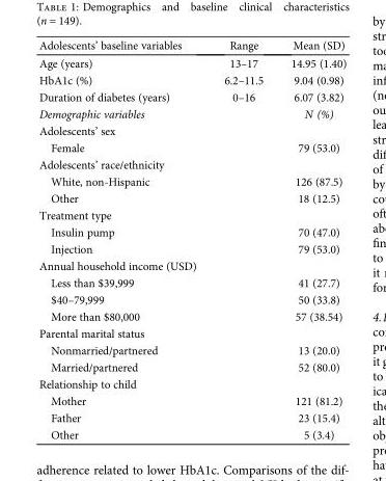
<table><thead><tr><td>Adolescents’ baseline variables</td><td>Range</td><td>Mean (SD)</td></tr></thead><tbody><tr><td>Age (years)</td><td>13–17</td><td>14.95 (1.40)</td></tr><tr><td>HbA1c (%)</td><td>6.2–11.5</td><td>9.04 (0.98)</td></tr><tr><td>Duration of diabetes (years)</td><td>0–16</td><td>6.07 (3.82)</td></tr><tr><td>Demographic variables</td><td></td><td>N (%)</td></tr><tr><td colspan="3">Adolescents’ sex</td></tr><tr><td>Female</td><td></td><td>79 (53.0)</td></tr><tr><td colspan="3">Adolescents’ race/ethnicity</td></tr><tr><td>White, non-Hispanic</td><td></td><td>126 (87.5)</td></tr><tr><td>Other</td><td></td><td>18 (12.5)</td></tr><tr><td colspan="3">Treatment type</td></tr><tr><td>Insulin pump</td><td></td><td>70 (47.0)</td></tr><tr><td>Injection</td><td></td><td>79 (53.0)</td></tr><tr><td colspan="3">Annual household income (USD)</td></tr><tr><td>Less than $39,999</td><td></td><td>41 (27.7)</td></tr><tr><td>$40–79,999</td><td></td><td>50 (33.8)</td></tr><tr><td>More than $80,000</td><td></td><td>57 (38.54)</td></tr><tr><td colspan="3">Parental marital status</td></tr><tr><td>Nonmarried/partnered</td><td></td><td>13 (20.0)</td></tr><tr><td>Married/partnered</td><td></td><td>52 (80.0)</td></tr><tr><td colspan="3">Relationship to child</td></tr><tr><td>Mother</td><td></td><td>121 (81.2)</td></tr><tr><td>Father</td><td></td><td>23 (15.4)</td></tr><tr><td>Other</td><td></td><td>5 (3.4)</td></tr></tbody></table>